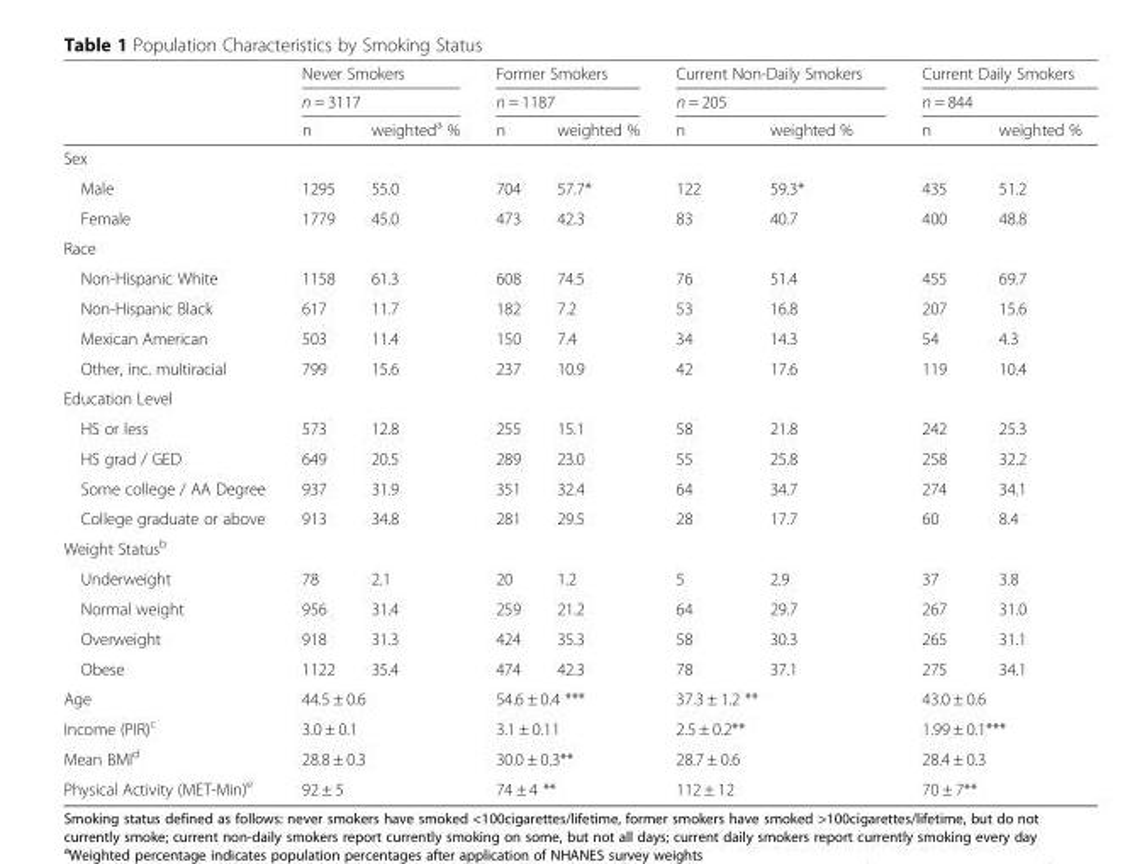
<table><thead><tr><td rowspan="3"></td><td rowspan="2" colspan="2">Never Smokers n = 3117</td><td rowspan="2" colspan="2">Former Smokers n = 1187</td><td rowspan="2" colspan="2">Current Non-Daily Smokers n = 205</td><td rowspan="2" colspan="2">Current Daily Smokers n = 844</td></tr><tr></tr><tr><td>n</td><td>weighted<sup>a</sup> %</td><td>n</td><td>weighted %</td><td>n</td><td>weighted %</td><td>n</td><td>weighted %</td></tr></thead><tbody><tr><td colspan="9">Sex</td></tr><tr><td>Male</td><td>1295</td><td>55.0</td><td>704</td><td>57.7*</td><td>122</td><td>59.3*</td><td>435</td><td>51.2</td></tr><tr><td>Female</td><td>1779</td><td>45.0</td><td>473</td><td>42.3</td><td>83</td><td>40.7</td><td>400</td><td>48.8</td></tr><tr><td colspan="9">Race</td></tr><tr><td>Non-Hispanic White</td><td>1158</td><td>61.3</td><td>608</td><td>74.5</td><td>76</td><td>51.4</td><td>455</td><td>69.7</td></tr><tr><td>Non-Hispanic Black</td><td>617</td><td>11.7</td><td>182</td><td>7.2</td><td>53</td><td>16.8</td><td>207</td><td>15.6</td></tr><tr><td>Mexican American</td><td>503</td><td>11.4</td><td>150</td><td>7.4</td><td>34</td><td>14.3</td><td>54</td><td>4.3</td></tr><tr><td>Other, inc. multiracial</td><td>799</td><td>15.6</td><td>237</td><td>10.9</td><td>42</td><td>17.6</td><td>119</td><td>10.4</td></tr><tr><td colspan="9">Education Level</td></tr><tr><td>HS or less</td><td>573</td><td>12.8</td><td>255</td><td>15.1</td><td>58</td><td>21.8</td><td>242</td><td>25.3</td></tr><tr><td>HS grad / GED</td><td>649</td><td>20.5</td><td>289</td><td>23.0</td><td>55</td><td>25.8</td><td>258</td><td>32.2</td></tr><tr><td>Some college / AA Degree</td><td>937</td><td>31.9</td><td>351</td><td>32.4</td><td>64</td><td>34.7</td><td>274</td><td>34.1</td></tr><tr><td>College graduate or above</td><td>913</td><td>34.8</td><td>281</td><td>29.5</td><td>28</td><td>17.7</td><td>60</td><td>8.4</td></tr><tr><td colspan="9">Weight Status<sup>b</sup></td></tr><tr><td>Underweight</td><td>78</td><td>2.1</td><td>20</td><td>1.2</td><td>5</td><td>2.9</td><td>37</td><td>3.8</td></tr><tr><td>Normal weight</td><td>956</td><td>31.4</td><td>259</td><td>21.2</td><td>64</td><td>29.7</td><td>267</td><td>31.0</td></tr><tr><td>Overweight</td><td>918</td><td>31.3</td><td>424</td><td>35.3</td><td>58</td><td>30.3</td><td>265</td><td>31.1</td></tr><tr><td>Obese</td><td>1122</td><td>35.4</td><td>474</td><td>42.3</td><td>78</td><td>37.1</td><td>275</td><td>34.1</td></tr><tr><td>Age</td><td colspan="2">44.5 ± 0.6</td><td colspan="2">54.6 ± 0.4 ***</td><td colspan="2">37.3 ± 1.2 **</td><td colspan="2">43.0 ± 0.6</td></tr><tr><td>Income (PIR)<sup>c</sup></td><td colspan="2">3.0 ± 0.1</td><td colspan="2">3.1 ± 0.11</td><td colspan="2">2.5 ± 0.2**</td><td colspan="2">1.99 ± 0.1***</td></tr><tr><td>Mean BMI<sup>d</sup></td><td colspan="2">28.8 ± 0.3</td><td colspan="2">30.0 ± 0.3**</td><td colspan="2">28.7 ± 0.6</td><td colspan="2">28.4 ± 0.3</td></tr><tr><td>Physical Activity (MET-Min)<sup>e</sup></td><td colspan="2">92 ± 5</td><td colspan="2">74 ± 4 **</td><td colspan="2">112 ± 12</td><td colspan="2">70 ± 7**</td></tr></tbody></table>